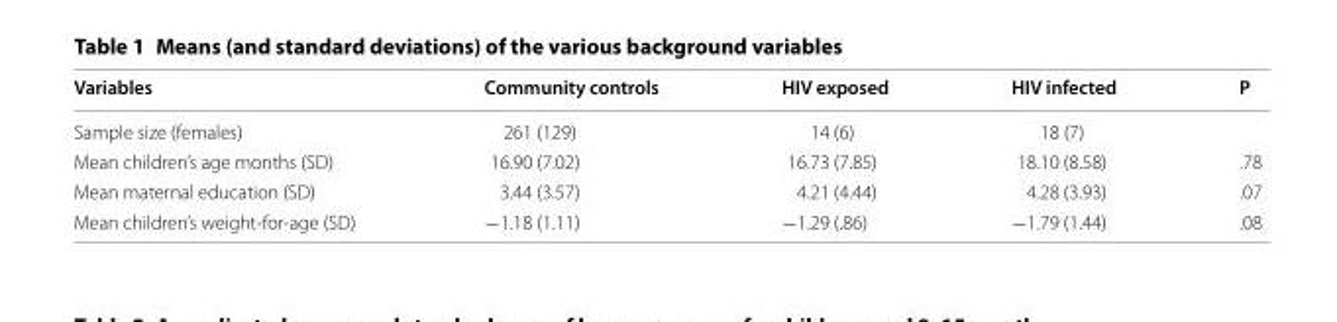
<table><thead><tr><td>Variables</td><td>Community controls</td><td>HIV exposed</td><td>HIV infected</td><td>P</td></tr></thead><tbody><tr><td>Sample size (females)</td><td>261 (129)</td><td>14 (6)</td><td>18 (7)</td><td></td></tr><tr><td>Mean children’s age months (SD)</td><td>16.90 (7.02)</td><td>16.73 (7.85)</td><td>18.10 (8.58)</td><td>.78</td></tr><tr><td>Mean maternal education (SD)</td><td>3.44 (3.57)</td><td>4.21 (4.44)</td><td>4.28 (3.93)</td><td>.07</td></tr><tr><td>Mean children’s weight-for-age (SD)</td><td>−1.18 (1.11)</td><td>−1.29 (.86)</td><td>−1.79 (1.44)</td><td>.08</td></tr></tbody></table>